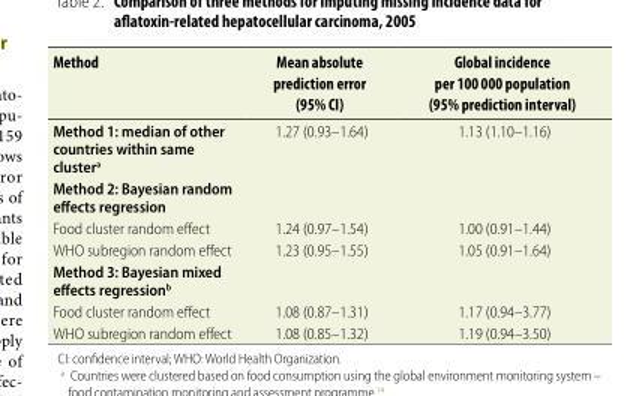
<table><thead><tr><td>Method</td><td>Mean absolute prediction error (95% CI)</td><td>Global incidence per 100 000 population (95% prediction interval)</td></tr></thead><tbody><tr><td>Method 1: median of other countries within same cluster<sup>a</sup></td><td>1.27 (0.93–1.64)</td><td>1.13 (1.10–1.16)</td></tr><tr><td colspan="3">Method 2: Bayesian random effects regression</td></tr><tr><td>Food cluster random effect</td><td>1.24 (0.97–1.54)</td><td>1.00 (0.91–1.44)</td></tr><tr><td>WHO subregion random effect</td><td>1.23 (0.95–1.55)</td><td>1.05 (0.91–1.64)</td></tr><tr><td colspan="3">Method 3: Bayesian mixed effects regression<sup>b</sup></td></tr><tr><td>Food cluster random effect</td><td>1.08 (0.87–1.31)</td><td>1.17 (0.94–3.77)</td></tr><tr><td>WHO subregion random effect</td><td>1.08 (0.85–1.32)</td><td>1.19 (0.94–3.50)</td></tr></tbody></table>